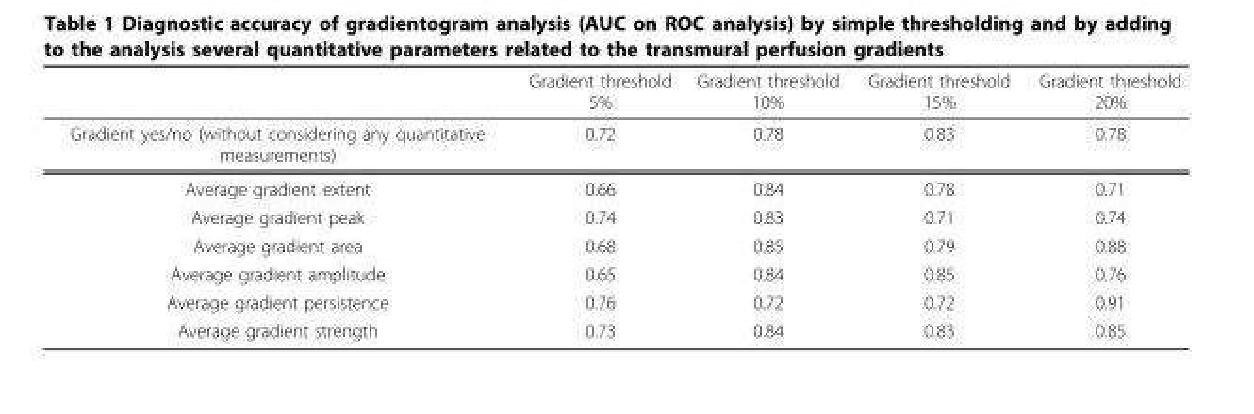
<table><thead><tr><td></td><td>Gradient threshold 5%</td><td>Gradient threshold 10%</td><td>Gradient threshold 15%</td><td>Gradient threshold 20%</td></tr></thead><tbody><tr><td>Gradient yes/no (without considering any quantitative measurements)</td><td>0.72</td><td>0.78</td><td>0.83</td><td>0.78</td></tr><tr><td>Average gradient extent</td><td>0.66</td><td>0.84</td><td>0.78</td><td>0.71</td></tr><tr><td>Average gradient peak</td><td>0.74</td><td>0.83</td><td>0.71</td><td>0.74</td></tr><tr><td>Average gradient area</td><td>0.68</td><td>0.85</td><td>0.79</td><td>0.88</td></tr><tr><td>Average gradient amplitude</td><td>0.65</td><td>0.84</td><td>0.85</td><td>0.76</td></tr><tr><td>Average gradient persistence</td><td>0.76</td><td>0.72</td><td>0.72</td><td>0.91</td></tr><tr><td>Average gradient strength</td><td>0.73</td><td>0.84</td><td>0.83</td><td>0.85</td></tr></tbody></table>